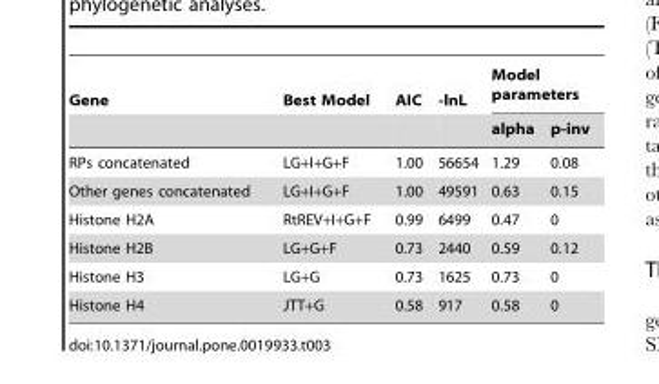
<table><thead><tr><td rowspan="2">Gene</td><td rowspan="2">Best Model</td><td rowspan="2">AIC</td><td rowspan="2">-lnL</td><td colspan="2">Model parameters</td></tr><tr><td>alpha</td><td>p-inv</td></tr></thead><tbody><tr><td>RPs concatenated</td><td>LG+I+G+F</td><td>1.00</td><td>56654</td><td>1.29</td><td>0.08</td></tr><tr><td>Other genes concatenated</td><td>LG+I+G+F</td><td>1.00</td><td>49591</td><td>0.63</td><td>0.15</td></tr><tr><td>Histone H2A</td><td>RtREV+I+G+F</td><td>0.99</td><td>6499</td><td>0.47</td><td>0</td></tr><tr><td>Histone H2B</td><td>LG+G+F</td><td>0.73</td><td>2440</td><td>0.59</td><td>0.12</td></tr><tr><td>Histone H3</td><td>LG+G</td><td>0.73</td><td>1625</td><td>0.73</td><td>0</td></tr><tr><td>Histone H4</td><td>JTT+G</td><td>0.58</td><td>917</td><td>0.58</td><td>0</td></tr></tbody></table>